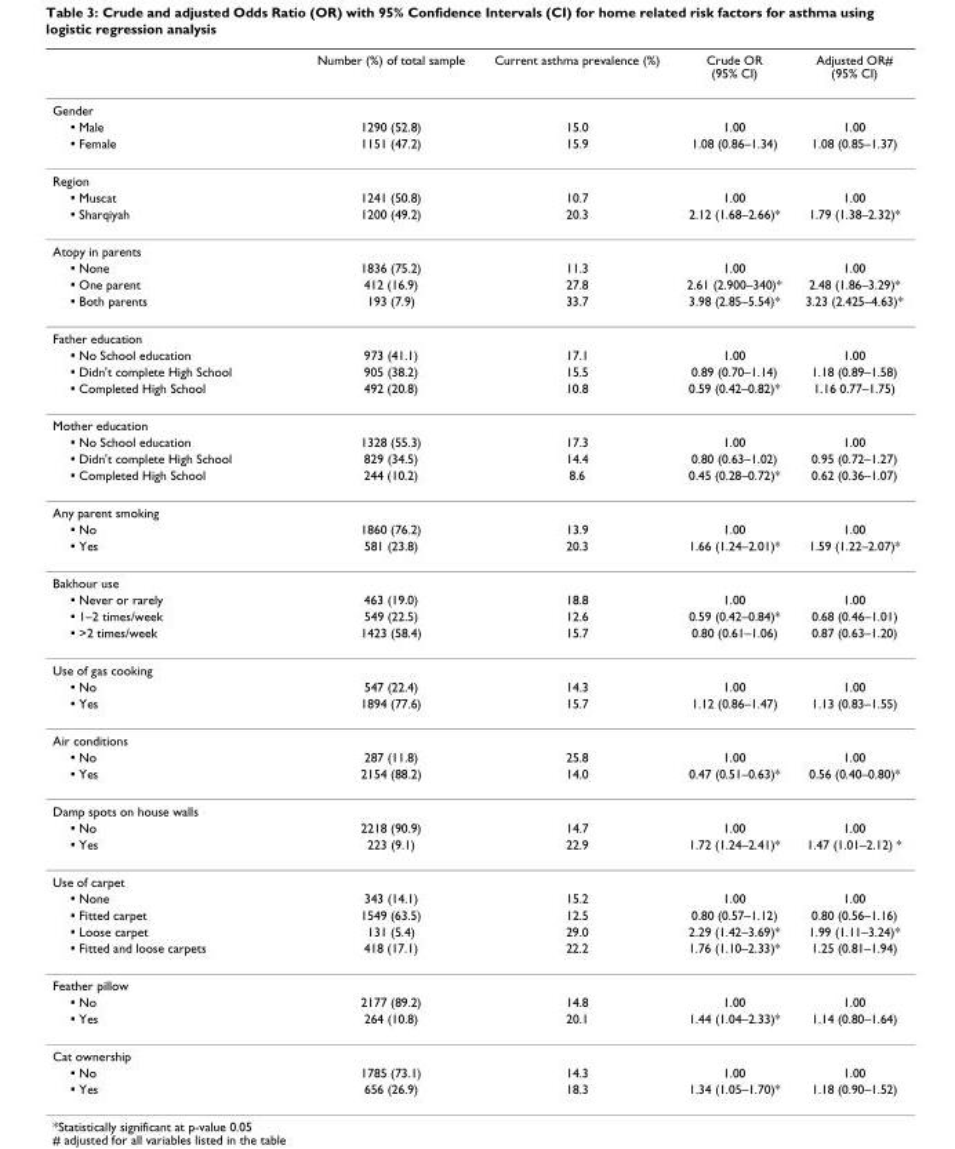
<table><thead><tr><td></td><td>Number (%) of total sample</td><td>Current asthma prevalence (%)</td><td>Crude OR (95% CI)</td><td>Adjusted OR# (95% CI)</td></tr></thead><tbody><tr><td colspan="5">Gender</td></tr><tr><td>▪ Male</td><td>1290 (52.8)</td><td>15.0</td><td>1.00</td><td>1.00</td></tr><tr><td>▪ Female</td><td>1151 (47.2)</td><td>15.9</td><td>1.08 (0.86–1.34)</td><td>1.08 (0.85–1.37)</td></tr><tr><td colspan="5">Region</td></tr><tr><td>▪ Muscat</td><td>1241 (50.8)</td><td>10.7</td><td>1.00</td><td>1.00</td></tr><tr><td>▪ Sharqiyah</td><td>1200 (49.2)</td><td>20.3</td><td>2.12 (1.68–2.66)*</td><td>1.79 (1.38–2.32)*</td></tr><tr><td colspan="5">Atopy in parents</td></tr><tr><td>▪ None</td><td>1836 (75.2)</td><td>11.3</td><td>1.00</td><td>1.00</td></tr><tr><td>▪ One parent</td><td>412 (16.9)</td><td>27.8</td><td>2.61 (2.900–340)*</td><td>2.48 (1.86–3.29)*</td></tr><tr><td>▪ Both parents</td><td>193 (7.9)</td><td>33.7</td><td>3.98 (2.85–5.54)*</td><td>3.23 (2.425–4.63)*</td></tr><tr><td colspan="5">Father education</td></tr><tr><td>▪ No School education</td><td>973 (41.1)</td><td>17.1</td><td>1.00</td><td>1.00</td></tr><tr><td>▪ Didn&#x27;t complete High School</td><td>905 (38.2)</td><td>15.5</td><td>0.89 (0.70–1.14)</td><td>1.18 (0.89–1.58)</td></tr><tr><td>▪ Completed High School</td><td>492 (20.8)</td><td>10.8</td><td>0.59 (0.42–0.82)*</td><td>1.16 0.77–1.75)</td></tr><tr><td colspan="5">Mother education</td></tr><tr><td>▪ No School education</td><td>1328 (55.3)</td><td>17.3</td><td>1.00</td><td>1.00</td></tr><tr><td>▪ Didn&#x27;t complete High School</td><td>829 (34.5)</td><td>14.4</td><td>0.80 (0.63–1.02)</td><td>0.95 (0.72–1.27)</td></tr><tr><td>▪ Completed High School</td><td>244 (10.2)</td><td>8.6</td><td>0.45 (0.28–0.72)*</td><td>0.62 (0.36–1.07)</td></tr><tr><td colspan="5">Any parent smoking</td></tr><tr><td>▪ No</td><td>1860 (76.2)</td><td>13.9</td><td>1.00</td><td>1.00</td></tr><tr><td>▪ Yes</td><td>581 (23.8)</td><td>20.3</td><td>1.66 (1.24–2.01)*</td><td>1.59 (1.22–2.07)*</td></tr><tr><td colspan="5">Bakhour use</td></tr><tr><td>▪ Never or rarely</td><td>463 (19.0)</td><td>18.8</td><td>1.00</td><td>1.00</td></tr><tr><td>▪ 1–2 times/week</td><td>549 (22.5)</td><td>12.6</td><td>0.59 (0.42–0.84)*</td><td>0.68 (0.46–1.01)</td></tr><tr><td>▪ &gt;2 times/week</td><td>1423 (58.4)</td><td>15.7</td><td>0.80 (0.61–1.06)</td><td>0.87 (0.63–1.20)</td></tr><tr><td colspan="5">Use of gas cooking</td></tr><tr><td>▪ No</td><td>547 (22.4)</td><td>14.3</td><td>1.00</td><td>1.00</td></tr><tr><td>▪ Yes</td><td>1894 (77.6)</td><td>15.7</td><td>1.12 (0.86–1.47)</td><td>1.13 (0.83–1.55)</td></tr><tr><td colspan="5">Air conditions</td></tr><tr><td>▪ No</td><td>287 (11.8)</td><td>25.8</td><td>1.00</td><td>1.00</td></tr><tr><td>▪ Yes</td><td>2154 (88.2)</td><td>14.0</td><td>0.47 (0.51–0.63)*</td><td>0.56 (0.40–0.80)*</td></tr><tr><td colspan="5">Damp spots on house walls</td></tr><tr><td>▪ No</td><td>2218 (90.9)</td><td>14.7</td><td>1.00</td><td>1.00</td></tr><tr><td>▪ Yes</td><td>223 (9.1)</td><td>22.9</td><td>1.72 (1.24–2.41)*</td><td>1.47 (1.01–2.12) *</td></tr><tr><td colspan="5">Use of carpet</td></tr><tr><td>▪ None</td><td>343 (14.1)</td><td>15.2</td><td>1.00</td><td>1.00</td></tr><tr><td>▪ Fitted carpet</td><td>1549 (63.5)</td><td>12.5</td><td>0.80 (0.57–1.12)</td><td>0.80 (0.56–1.16)</td></tr><tr><td>▪ Loose carpet</td><td>131 (5.4)</td><td>29.0</td><td>2.29 (1.42–3.69)*</td><td>1.99 (1.11–3.24)*</td></tr><tr><td>▪ Fitted and loose carpets</td><td>418 (17.1)</td><td>22.2</td><td>1.76 (1.10–2.33)*</td><td>1.25 (0.81–1.94)</td></tr><tr><td colspan="5">Feather pillow</td></tr><tr><td>▪ No</td><td>2177 (89.2)</td><td>14.8</td><td>1.00</td><td>1.00</td></tr><tr><td>▪ Yes</td><td>264 (10.8)</td><td>20.1</td><td>1.44 (1.04–2.33)*</td><td>1.14 (0.80–1.64)</td></tr><tr><td colspan="5">Cat ownership</td></tr><tr><td>▪ No</td><td>1785 (73.1)</td><td>14.3</td><td>1.00</td><td>1.00</td></tr><tr><td>▪ Yes</td><td>656 (26.9)</td><td>18.3</td><td>1.34 (1.05–1.70)*</td><td>1.18 (0.90–1.52)</td></tr></tbody></table>